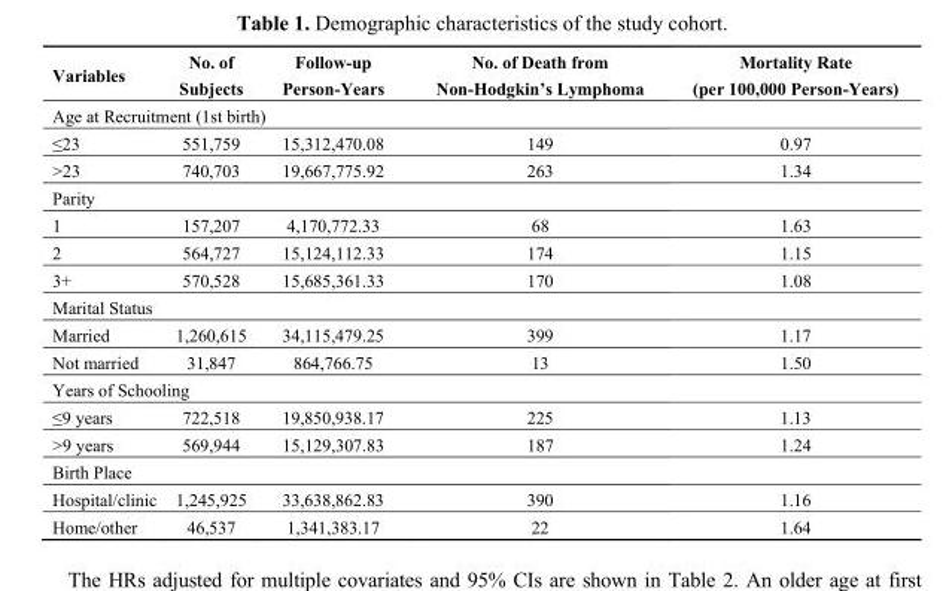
<table><thead><tr><td>Variables</td><td>No. of Subjects</td><td>Follow-up Person-Years</td><td>No. of Death from Non-Hodgkin’s Lymphoma</td><td>Mortality Rate (per 100,000 Person-Years)</td></tr></thead><tbody><tr><td colspan="5">Age at Recruitment (1st birth)</td></tr><tr><td>≤23</td><td>551,759</td><td>15,312,470.08</td><td>149</td><td>0.97</td></tr><tr><td>&gt;23</td><td>740,703</td><td>19,667,775.92</td><td>263</td><td>1.34</td></tr><tr><td colspan="5">Parity</td></tr><tr><td>1</td><td>157,207</td><td>4,170,772.33</td><td>68</td><td>1.63</td></tr><tr><td>2</td><td>564,727</td><td>15,124,112.33</td><td>174</td><td>1.15</td></tr><tr><td>3+</td><td>570,528</td><td>15,685,361.33</td><td>170</td><td>1.08</td></tr><tr><td colspan="5">Marital Status</td></tr><tr><td>Married</td><td>1,260,615</td><td>34,115,479.25</td><td>399</td><td>1.17</td></tr><tr><td>Not married</td><td>31,847</td><td>864,766.75</td><td>13</td><td>1.50</td></tr><tr><td colspan="5">Years of Schooling</td></tr><tr><td>≤9 years</td><td>722,518</td><td>19,850,938.17</td><td>225</td><td>1.13</td></tr><tr><td>&gt;9 years</td><td>569,944</td><td>15,129,307.83</td><td>187</td><td>1.24</td></tr><tr><td colspan="5">Birth Place</td></tr><tr><td>Hospital/clinic</td><td>1,245,925</td><td>33,638,862.83</td><td>390</td><td>1.16</td></tr><tr><td>Home/other</td><td>46,537</td><td>1,341,383.17</td><td>22</td><td>1.64</td></tr></tbody></table>